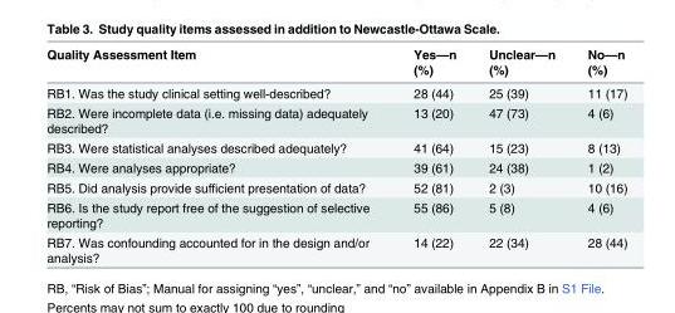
<table><thead><tr><td>Quality Assessment Item</td><td>Yes—n (%)</td><td>Unclear—n (%)</td><td>No—n (%)</td></tr></thead><tbody><tr><td>RB1. Was the study clinical setting well-described?</td><td>28 (44)</td><td>25 (39)</td><td>11 (17)</td></tr><tr><td>RB2. Were incomplete data (i.e. missing data) adequately described?</td><td>13 (20)</td><td>47 (73)</td><td>4 (6)</td></tr><tr><td>RB3. Were statistical analyses described adequately?</td><td>41 (64)</td><td>15 (23)</td><td>8 (13)</td></tr><tr><td>RB4. Were analyses appropriate?</td><td>39 (61)</td><td>24 (38)</td><td>1 (2)</td></tr><tr><td>RB5. Did analysis provide sufficient presentation of data?</td><td>52 (81)</td><td>2 (3)</td><td>10 (16)</td></tr><tr><td>RB6. Is the study report free of the suggestion of selective reporting?</td><td>55 (86)</td><td>5 (8)</td><td>4 (6)</td></tr><tr><td>RB7. Was confounding accounted for in the design and/or analysis?</td><td>14 (22)</td><td>22 (34)</td><td>28 (44)</td></tr></tbody></table>